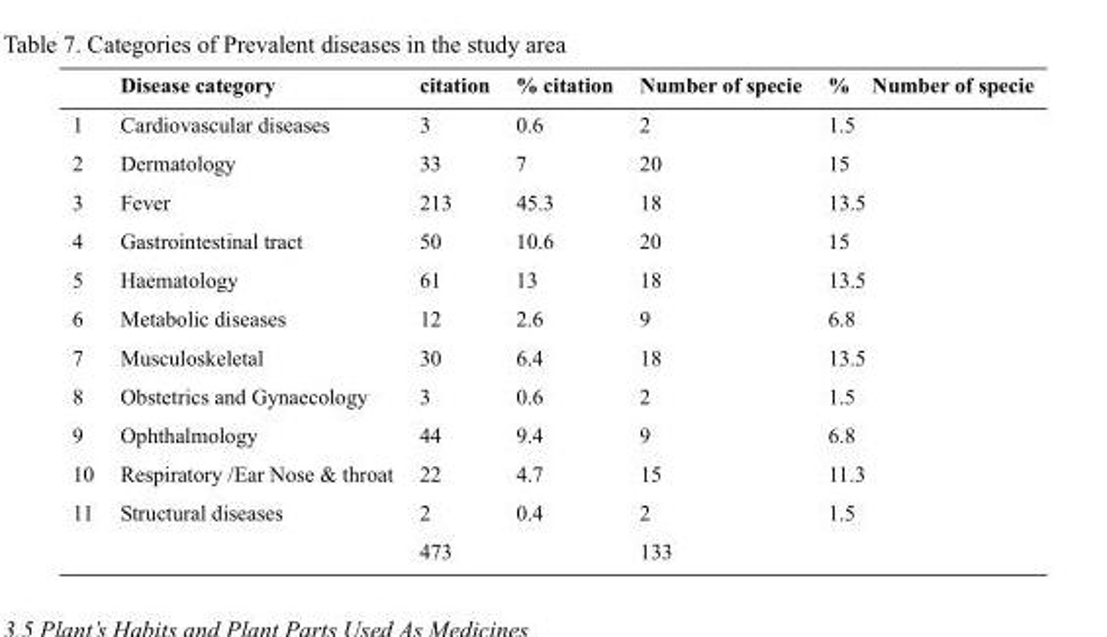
<table><thead><tr><td></td><td>Disease category</td><td>citation</td><td>% citation</td><td>Number of specie</td><td>% Number of specie</td></tr></thead><tbody><tr><td>1</td><td>Cardiovascular diseases</td><td>3</td><td>0.6</td><td>2</td><td>1.5</td></tr><tr><td>2</td><td>Dermatology</td><td>33</td><td>7</td><td>20</td><td>15</td></tr><tr><td>3</td><td>Fever</td><td>213</td><td>45.3</td><td>18</td><td>13.5</td></tr><tr><td>4</td><td>Gastrointestinal tract</td><td>50</td><td>10.6</td><td>20</td><td>15</td></tr><tr><td>5</td><td>Haematology</td><td>61</td><td>13</td><td>18</td><td>13.5</td></tr><tr><td>6</td><td>Metabolic diseases</td><td>12</td><td>2.6</td><td>9</td><td>6.8</td></tr><tr><td>7</td><td>Musculoskeletal</td><td>30</td><td>6.4</td><td>18</td><td>13.5</td></tr><tr><td>8</td><td>Obstetrics and Gynaecology</td><td>3</td><td>0.6</td><td>2</td><td>1.5</td></tr><tr><td>9</td><td>Ophthalmology</td><td>44</td><td>9.4</td><td>9</td><td>6.8</td></tr><tr><td>10</td><td>Respiratory /Ear Nose &amp; throat</td><td>22</td><td>4.7</td><td>15</td><td>11.3</td></tr><tr><td rowspan="2">11</td><td>Structural diseases</td><td>2</td><td>0.4</td><td>2</td><td>1.5</td></tr><tr><td></td><td>473</td><td></td><td>133</td><td></td></tr></tbody></table>